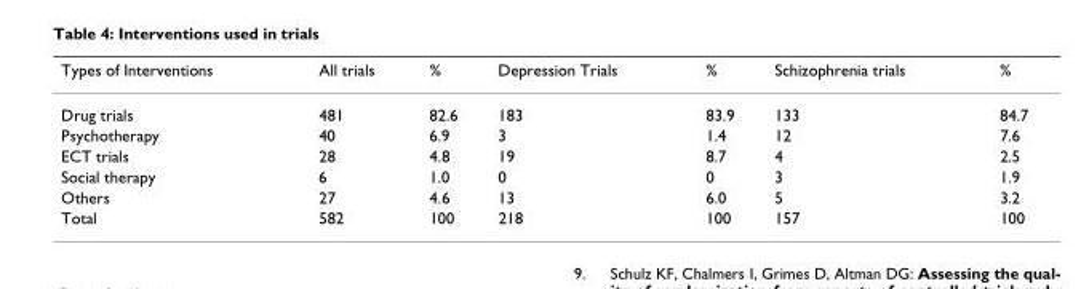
<table><thead><tr><td>Types of Interventions</td><td>All trials</td><td>%</td><td>Depression Trials</td><td>%</td><td>Schizophrenia trials</td><td>%</td></tr></thead><tbody><tr><td>Drug trials</td><td>481</td><td>82.6</td><td>183</td><td>83.9</td><td>133</td><td>84.7</td></tr><tr><td>Psychotherapy</td><td>40</td><td>6.9</td><td>3</td><td>1.4</td><td>12</td><td>7.6</td></tr><tr><td>ECT trials</td><td>28</td><td>4.8</td><td>19</td><td>8.7</td><td>4</td><td>2.5</td></tr><tr><td>Social therapy</td><td>6</td><td>1.0</td><td>0</td><td>0</td><td>3</td><td>1.9</td></tr><tr><td>Others</td><td>27</td><td>4.6</td><td>13</td><td>6.0</td><td>5</td><td>3.2</td></tr><tr><td>Total</td><td>582</td><td>100</td><td>218</td><td>100</td><td>157</td><td>100</td></tr></tbody></table>